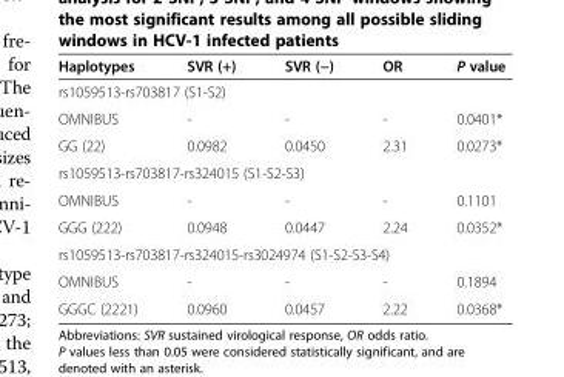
<table><thead><tr><td>Haplotypes</td><td>SVR (+)</td><td>SVR (−)</td><td>OR</td><td>P value</td></tr></thead><tbody><tr><td colspan="5">rs1059513-rs703817 (S1-S2)</td></tr><tr><td>OMNIBUS</td><td>-</td><td>-</td><td>-</td><td>0.0401*</td></tr><tr><td>GG (22)</td><td>0.0982</td><td>0.0450</td><td>2.31</td><td>0.0273*</td></tr><tr><td colspan="5">rs1059513-rs703817-rs324015 (S1-S2-S3)</td></tr><tr><td>OMNIBUS</td><td>-</td><td>-</td><td>-</td><td>0.1101</td></tr><tr><td>GGG (222)</td><td>0.0948</td><td>0.0447</td><td>2.24</td><td>0.0352*</td></tr><tr><td colspan="5">rs1059513-rs703817-rs324015-rs3024974 (S1-S2-S3-S4)</td></tr><tr><td>OMNIBUS</td><td>-</td><td>-</td><td>-</td><td>0.1894</td></tr><tr><td>GGGC (2221)</td><td>0.0960</td><td>0.0457</td><td>2.22</td><td>0.0368*</td></tr></tbody></table>